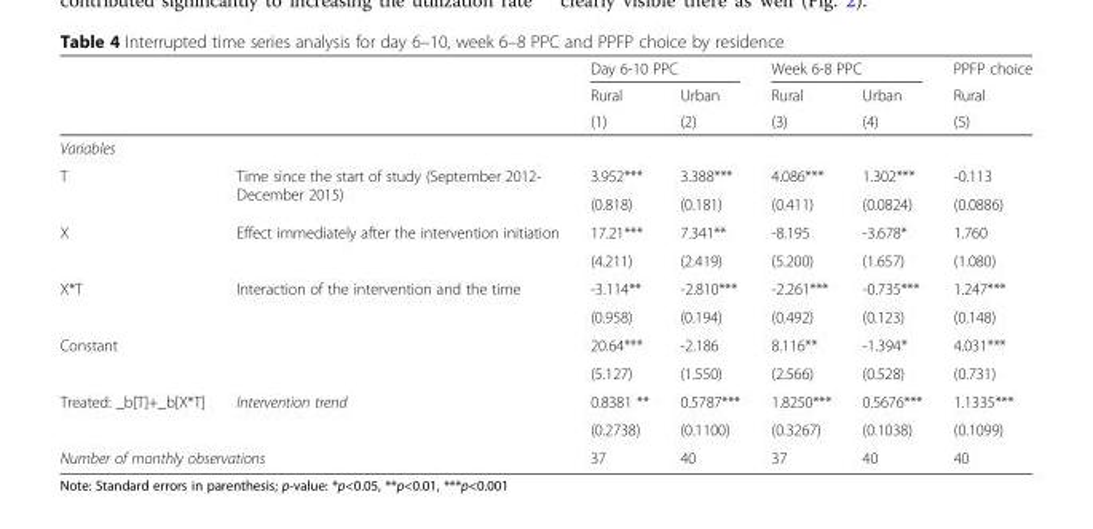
<table><thead><tr><td rowspan="3"></td><td rowspan="3"></td><td colspan="2">Day 6-10 PPC</td><td colspan="2">Week 6-8 PPC</td><td rowspan="3">PPFP choice Rural (5)</td></tr><tr><td rowspan="2">Rural (1)</td><td rowspan="2">Urban (2)</td><td rowspan="2">Rural (3)</td><td rowspan="2">Urban (4)</td></tr><tr></tr></thead><tbody><tr><td colspan="7">Variables</td></tr><tr><td rowspan="2">T</td><td rowspan="2">Time since the start of study (September 2012- December 2015)</td><td>3.952***</td><td>3.388***</td><td>4.086***</td><td>1.302***</td><td>-0.113</td></tr><tr><td>(0.818)</td><td>(0.181)</td><td>(0.411)</td><td>(0.0824)</td><td>(0.0886)</td></tr><tr><td rowspan="2">X</td><td rowspan="2">Effect immediately after the intervention initiation</td><td>17.21***</td><td>7.341**</td><td>-8.195</td><td>-3.678*</td><td>1.760</td></tr><tr><td>(4.211)</td><td>(2.419)</td><td>(5.200)</td><td>(1.657)</td><td>(1.080)</td></tr><tr><td rowspan="2">X*T</td><td rowspan="2">Interaction of the intervention and the time</td><td>-3.114**</td><td>-2.810***</td><td>-2.261***</td><td>-0.735***</td><td>1.247***</td></tr><tr><td>(0.958)</td><td>(0.194)</td><td>(0.492)</td><td>(0.123)</td><td>(0.148)</td></tr><tr><td rowspan="2" colspan="2">Constant</td><td>20.64***</td><td>-2.186</td><td>8.116**</td><td>-1.394*</td><td>4.031***</td></tr><tr><td>(5.127)</td><td>(1.550)</td><td>(2.566)</td><td>(0.528)</td><td>(0.731)</td></tr><tr><td rowspan="2">Treated: _b[T]+_b[X*T]</td><td rowspan="2">Intervention trend</td><td>0.8381 **</td><td>0.5787***</td><td>1.8250***</td><td>0.5676***</td><td>1.1335***</td></tr><tr><td>(0.2738)</td><td>(0.1100)</td><td>(0.3267)</td><td>(0.1038)</td><td>(0.1099)</td></tr><tr><td colspan="2">Number of monthly observations</td><td>37</td><td>40</td><td>37</td><td>40</td><td>40</td></tr></tbody></table>